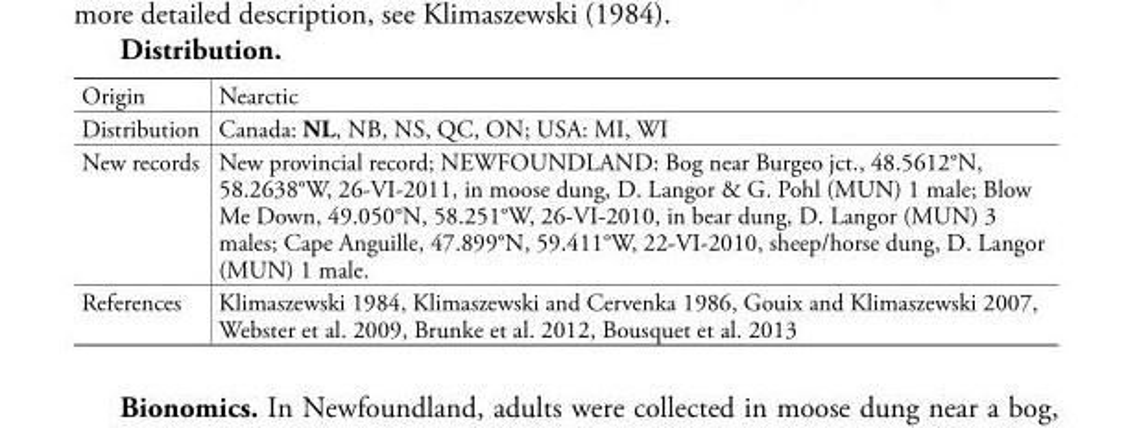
<table><tbody><tr><td>Origin</td><td>Nearctic</td></tr><tr><td>Distribution</td><td>Canada: NL, NB, NS, QC, ON; USA: MI, WI</td></tr><tr><td>New records</td><td>New provincial record; NEWFOUNDLAND: Bog near Burgeo jct., 48.5612°N, 58.2638°W, 26-VI-2011, in moose dung, D. Langor &amp; G. Pohl (MUN) 1 male; Blow Me Down, 49.050°N, 58.251°W, 26-VI-2010, in bear dung, D. Langor (MUN) 3 males; Cape Anguille, 47.899°N, 59.411°W, 22-VI-2010, sheep/horse dung, D. Langor (MUN) 1 male.</td></tr><tr><td>References</td><td>Klimaszewski 1984, Klimaszewski and Cervenka 1986, Gouix and Klimaszewski 2007, Webster et al. 2009, Brunke et al. 2012, Bousquet et al. 2013</td></tr></tbody></table>